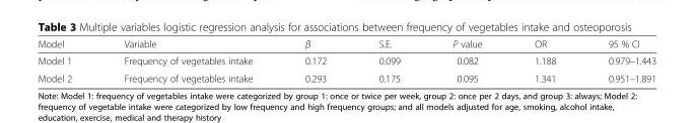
<table><thead><tr><td>Model</td><td>Variable</td><td>β</td><td>S.E.</td><td>P value</td><td>OR</td><td>95 % CI</td></tr></thead><tbody><tr><td>Model 1</td><td>Frequency of vegetables intake</td><td>0.172</td><td>0.099</td><td>0.082</td><td>1.188</td><td>0.979–1.443</td></tr><tr><td>Model 2</td><td>Frequency of vegetables intake</td><td>0.293</td><td>0.175</td><td>0.095</td><td>1.341</td><td>0.951–1.891</td></tr></tbody></table>